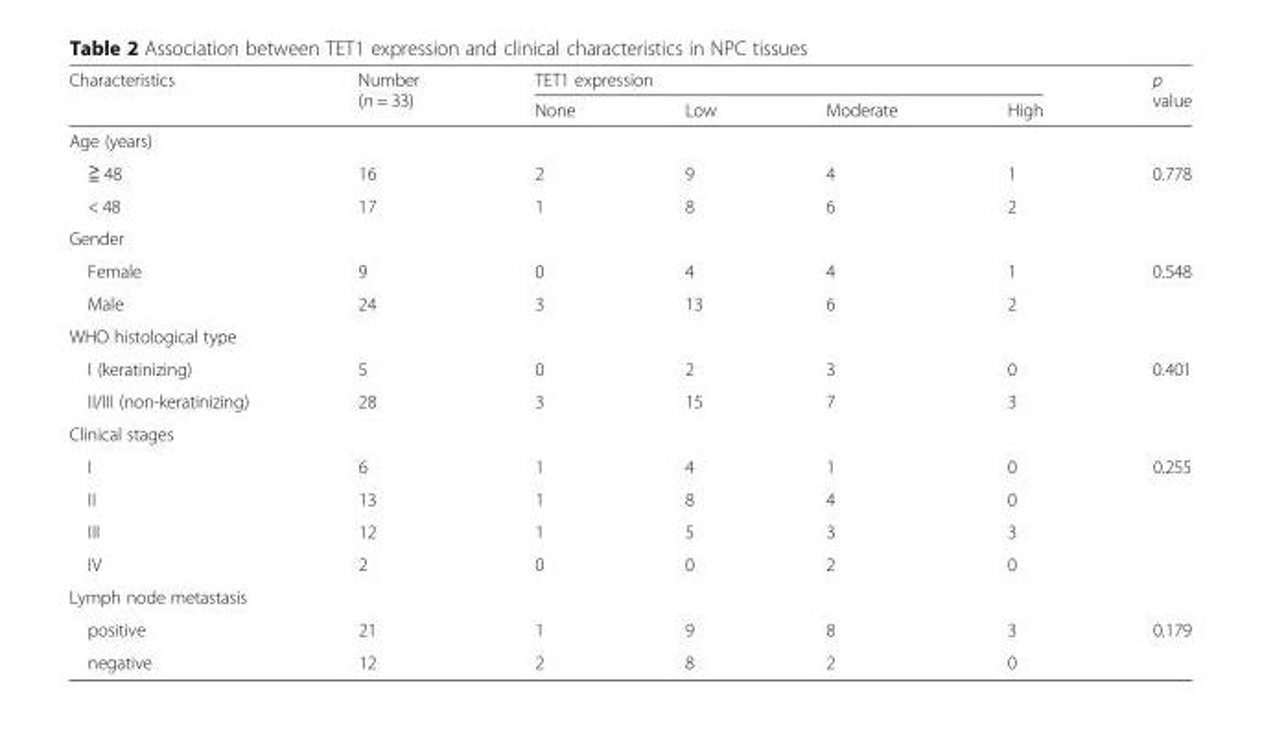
<table><thead><tr><td rowspan="2">Characteristics</td><td rowspan="2">Number (n = 33)</td><td colspan="4">TET1 expression</td><td rowspan="2">p value</td></tr><tr><td>None</td><td>Low</td><td>Moderate</td><td>High</td></tr></thead><tbody><tr><td colspan="7">Age (years)</td></tr><tr><td>≧ 48</td><td>16</td><td>2</td><td>9</td><td>4</td><td>1</td><td rowspan="2">0.778</td></tr><tr><td>&lt; 48</td><td>17</td><td>1</td><td>8</td><td>6</td><td>2</td></tr><tr><td colspan="7">Gender</td></tr><tr><td>Female</td><td>9</td><td>0</td><td>4</td><td>4</td><td>1</td><td rowspan="2">0.548</td></tr><tr><td>Male</td><td>24</td><td>3</td><td>13</td><td>6</td><td>2</td></tr><tr><td colspan="7">WHO histological type</td></tr><tr><td>I (keratinizing)</td><td>5</td><td>0</td><td>2</td><td>3</td><td>0</td><td rowspan="2">0.401</td></tr><tr><td>II/III (non-keratinizing)</td><td>28</td><td>3</td><td>15</td><td>7</td><td>3</td></tr><tr><td colspan="7">Clinical stages</td></tr><tr><td>I</td><td>6</td><td>1</td><td>4</td><td>1</td><td>0</td><td rowspan="4">0.255</td></tr><tr><td>II</td><td>13</td><td>1</td><td>8</td><td>4</td><td>0</td></tr><tr><td>III</td><td>12</td><td>1</td><td>5</td><td>3</td><td>3</td></tr><tr><td>IV</td><td>2</td><td>0</td><td>0</td><td>2</td><td>0</td></tr><tr><td colspan="7">Lymph node metastasis</td></tr><tr><td>positive</td><td>21</td><td>1</td><td>9</td><td>8</td><td>3</td><td rowspan="2">0.179</td></tr><tr><td>negative</td><td>12</td><td>2</td><td>8</td><td>2</td><td>0</td></tr></tbody></table>